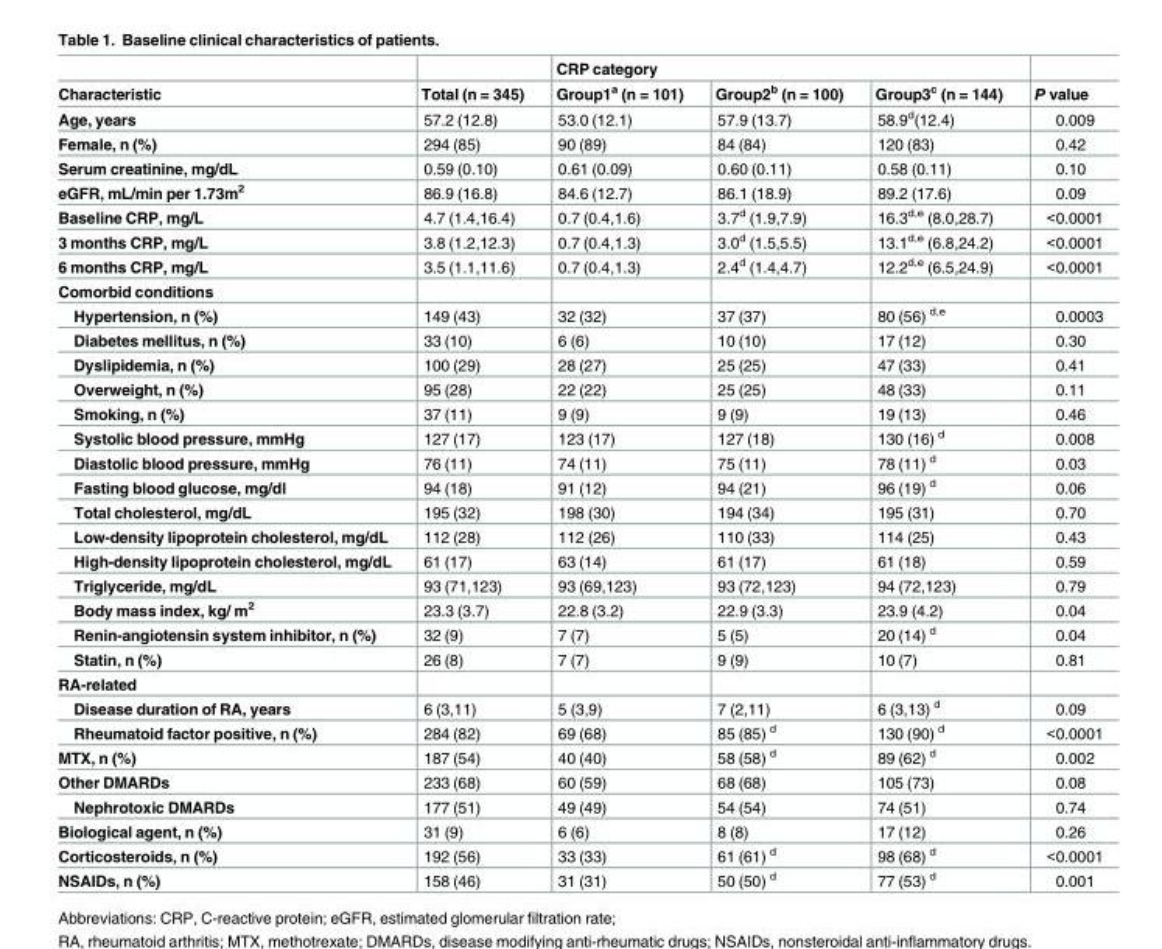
<table><thead><tr><td rowspan="2">Characteristic</td><td rowspan="2">Total (n = 345)</td><td colspan="3">CRP category</td><td rowspan="2">P value</td></tr><tr><td>Group1<sup>a</sup> (n = 101)</td><td>Group2<sup>b</sup> (n = 100)</td><td>Group3<sup>c</sup> (n = 144)</td></tr></thead><tbody><tr><td>Age, years</td><td>57.2 (12.8)</td><td>53.0 (12.1)</td><td>57.9 (13.7)</td><td>58.9<sup>d</sup>(12.4)</td><td>0.009</td></tr><tr><td>Female, n (%)</td><td>294 (85)</td><td>90 (89)</td><td>84 (84)</td><td>120 (83)</td><td>0.42</td></tr><tr><td>Serum creatinine, mg/dL</td><td>0.59 (0.10)</td><td>0.61 (0.09)</td><td>0.60 (0.11)</td><td>0.58 (0.11)</td><td>0.10</td></tr><tr><td>eGFR, mL/min per 1.73m<sup>2</sup></td><td>86.9 (16.8)</td><td>84.6 (12.7)</td><td>86.1 (18.9)</td><td>89.2 (17.6)</td><td>0.09</td></tr><tr><td>Baseline CRP, mg/L</td><td>4.7 (1.4,16.4)</td><td>0.7 (0.4,1.6)</td><td>3.7<sup>d</sup> (1.9,7.9)</td><td>16.3<sup>d,e</sup> (8.0,28.7)</td><td>&lt;0.0001</td></tr><tr><td>3 months CRP, mg/L</td><td>3.8 (1.2,12.3)</td><td>0.7 (0.4,1.3)</td><td>3.0<sup>d</sup> (1.5,5.5)</td><td>13.1<sup>d,e</sup> (6.8,24.2)</td><td>&lt;0.0001</td></tr><tr><td>6 months CRP, mg/L</td><td>3.5 (1.1,11.6)</td><td>0.7 (0.4,1.3)</td><td>2.4<sup>d</sup> (1.4,4.7)</td><td>12.2<sup>d,e</sup> (6.5,24.9)</td><td>&lt;0.0001</td></tr><tr><td colspan="6">Comorbid conditions</td></tr><tr><td>Hypertension, n (%)</td><td>149 (43)</td><td>32 (32)</td><td>37 (37)</td><td>80 (56) <sup>d,e</sup></td><td>0.0003</td></tr><tr><td>Diabetes mellitus, n (%)</td><td>33 (10)</td><td>6 (6)</td><td>10 (10)</td><td>17 (12)</td><td>0.30</td></tr><tr><td>Dyslipidemia, n (%)</td><td>100 (29)</td><td>28 (27)</td><td>25 (25)</td><td>47 (33)</td><td>0.41</td></tr><tr><td>Overweight, n (%)</td><td>95 (28)</td><td>22 (22)</td><td>25 (25)</td><td>48 (33)</td><td>0.11</td></tr><tr><td>Smoking, n (%)</td><td>37 (11)</td><td>9 (9)</td><td>9 (9)</td><td>19 (13)</td><td>0.46</td></tr><tr><td>Systolic blood pressure, mmHg</td><td>127 (17)</td><td>123 (17)</td><td>127 (18)</td><td>130 (16) <sup>d</sup></td><td>0.008</td></tr><tr><td>Diastolic blood pressure, mmHg</td><td>76 (11)</td><td>74 (11)</td><td>75 (11)</td><td>78 (11) <sup>d</sup></td><td>0.03</td></tr><tr><td>Fasting blood glucose, mg/dl</td><td>94 (18)</td><td>91 (12)</td><td>94 (21)</td><td>96 (19) <sup>d</sup></td><td>0.06</td></tr><tr><td>Total cholesterol, mg/dL</td><td>195 (32)</td><td>198 (30)</td><td>194 (34)</td><td>195 (31)</td><td>0.70</td></tr><tr><td>Low-density lipoprotein cholesterol, mg/dL</td><td>112 (28)</td><td>112 (26)</td><td>110 (33)</td><td>114 (25)</td><td>0.43</td></tr><tr><td>High-density lipoprotein cholesterol, mg/dL</td><td>61 (17)</td><td>63 (14)</td><td>61 (17)</td><td>61 (18)</td><td>0.59</td></tr><tr><td>Triglyceride, mg/dL</td><td>93 (71,123)</td><td>93 (69,123)</td><td>93 (72,123)</td><td>94 (72,123)</td><td>0.79</td></tr><tr><td>Body mass index, kg/ m<sup>2</sup></td><td>23.3 (3.7)</td><td>22.8 (3.2)</td><td>22.9 (3.3)</td><td>23.9 (4.2)</td><td>0.04</td></tr><tr><td>Renin-angiotensin system inhibitor, n (%)</td><td>32 (9)</td><td>7 (7)</td><td>5 (5)</td><td>20 (14) <sup>d</sup></td><td>0.04</td></tr><tr><td>Statin, n (%)</td><td>26 (8)</td><td>7 (7)</td><td>9 (9)</td><td>10 (7)</td><td>0.81</td></tr><tr><td colspan="6">RA-related</td></tr><tr><td>Disease duration of RA, years</td><td>6 (3,11)</td><td>5 (3,9)</td><td>7 (2,11)</td><td>6 (3,13) <sup>d</sup></td><td>0.09</td></tr><tr><td>Rheumatoid factor positive, n (%)</td><td>284 (82)</td><td>69 (68)</td><td>85 (85) <sup>d</sup></td><td>130 (90) <sup>d</sup></td><td>&lt;0.0001</td></tr><tr><td>MTX, n (%)</td><td>187 (54)</td><td>40 (40)</td><td>58 (58) <sup>d</sup></td><td>89 (62) <sup>d</sup></td><td>0.002</td></tr><tr><td>Other DMARDs</td><td>233 (68)</td><td>60 (59)</td><td>68 (68)</td><td>105 (73)</td><td>0.08</td></tr><tr><td>Nephrotoxic DMARDs</td><td>177 (51)</td><td>49 (49)</td><td>54 (54)</td><td>74 (51)</td><td>0.74</td></tr><tr><td>Biological agent, n (%)</td><td>31 (9)</td><td>6 (6)</td><td>8 (8)</td><td>17 (12)</td><td>0.26</td></tr><tr><td>Corticosteroids, n (%)</td><td>192 (56)</td><td>33 (33)</td><td>61 (61) <sup>d</sup></td><td>98 (68) <sup>d</sup></td><td>&lt;0.0001</td></tr><tr><td>NSAIDs, n (%)</td><td>158 (46)</td><td>31 (31)</td><td>50 (50) <sup>d</sup></td><td>77 (53) <sup>d</sup></td><td>0.001</td></tr></tbody></table>